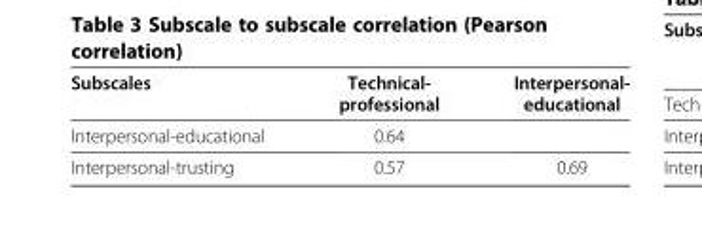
<table><thead><tr><td>Subscales</td><td>Technical- professional</td><td>Interpersonal- educational</td></tr></thead><tbody><tr><td>Interpersonal-educational</td><td>0.64</td><td></td></tr><tr><td>Interpersonal-trusting</td><td>0.57</td><td>0.69</td></tr></tbody></table>